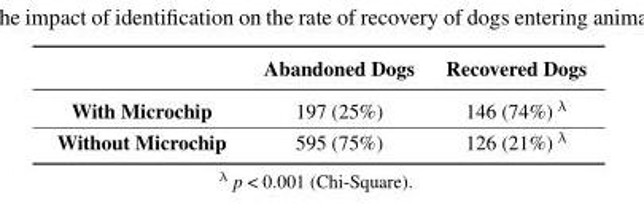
<table><thead><tr><td></td><td>Abandoned Dogs</td><td>Recovered Dogs</td></tr></thead><tbody><tr><td>With Microchip</td><td>197 (25%)</td><td>146 (74%) <sup>λ</sup></td></tr><tr><td>Without Microchip</td><td>595 (75%)</td><td>126 (21%) <sup>λ</sup></td></tr></tbody></table>